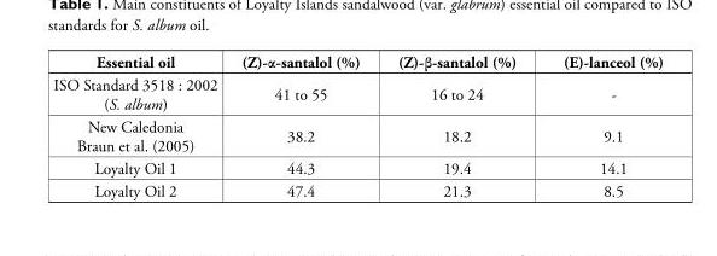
<table><thead><tr><td>Essential oil</td><td>(Z)-α-santalol (%)</td><td>(Z)-β-santalol (%)</td><td>(E)-lanceol (%)</td></tr></thead><tbody><tr><td>ISO Standard 3518 : 2002 (S. album)</td><td>41 to 55</td><td>16 to 24</td><td>-</td></tr><tr><td>New Caledonia Braun et al. (2005)</td><td>38.2</td><td>18.2</td><td>9.1</td></tr><tr><td>Loyalty Oil 1</td><td>44.3</td><td>19.4</td><td>14.1</td></tr><tr><td>Loyalty Oil 2</td><td>47.4</td><td>21.3</td><td>8.5</td></tr></tbody></table>